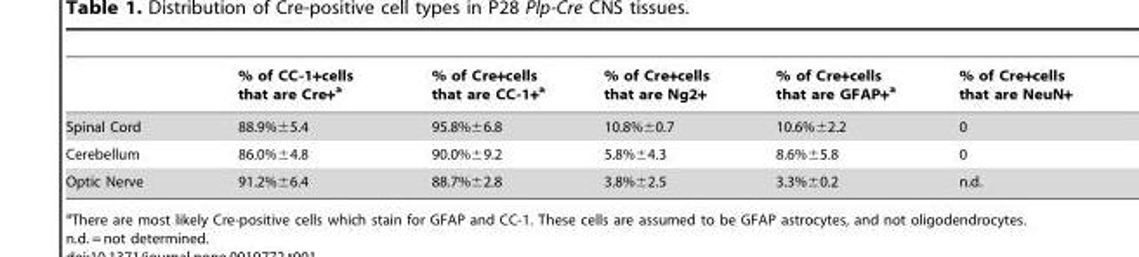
<table><thead><tr><td></td><td>% of CC-1+cells that are Cre+<sup>a</sup></td><td>% of Cre+cells that are CC-1+<sup>a</sup></td><td>% of Cre+cells that are Ng2+</td><td>% of Cre+cells that are GFAP+<sup>a</sup></td><td>% of Cre+cells that are NeuN+</td></tr></thead><tbody><tr><td>Spinal Cord</td><td>88.9%±5.4</td><td>95.8%±6.8</td><td>10.8%±0.7</td><td>10.6%±2.2</td><td>0</td></tr><tr><td>Cerebellum</td><td>86.0%±4.8</td><td>90.0%±9.2</td><td>5.8%±4.3</td><td>8.6%±5.8</td><td>0</td></tr><tr><td>Optic Nerve</td><td>91.2%±6.4</td><td>88.7%±2.8</td><td>3.8%±2.5</td><td>3.3%±0.2</td><td>n.d.</td></tr></tbody></table>